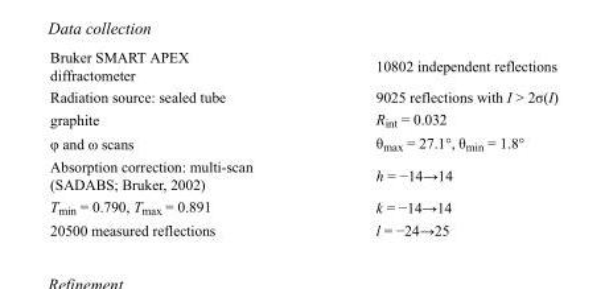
<table><tbody><tr><td>Bruker SMART APEX diffractometer</td><td>10802 independent reflections</td></tr><tr><td>Radiation source: sealed tube</td><td>9025 reflections with I &gt; 2σ(I)</td></tr><tr><td>graphite</td><td>R<sub>int</sub> = 0.032</td></tr><tr><td>φ and ω scans</td><td>θ<sub>max</sub> = 27.1°, θ<sub>min</sub> = 1.8°</td></tr><tr><td>Absorption correction: multi-scan (SADABS; Bruker, 2002)</td><td>h = −14→14</td></tr><tr><td>T<sub>min</sub> = 0.790, T<sub>max</sub> = 0.891</td><td>k = −14→14</td></tr><tr><td>20500 measured reflections</td><td>l = −24→25</td></tr></tbody></table>